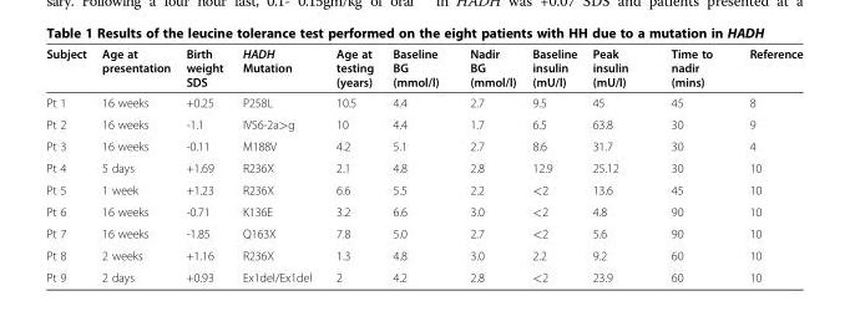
<table><thead><tr><td>Subject</td><td>Age at presentation</td><td>Birth weight SDS</td><td>HADH Mutation</td><td>Age at testing (years)</td><td>Baseline BG (mmol/l)</td><td>Nadir BG (mmol/l)</td><td>Baseline insulin (mU/l)</td><td>Peak insulin (mU/l)</td><td>Time to nadir (mins)</td><td>Reference</td></tr></thead><tbody><tr><td>Pt 1</td><td>16 weeks</td><td>+0.25</td><td>P258L</td><td>10.5</td><td>4.4</td><td>2.7</td><td>9.5</td><td>45</td><td>45</td><td>8</td></tr><tr><td>Pt 2</td><td>16 weeks</td><td>-1.1</td><td>IVS6-2a&gt;g</td><td>10</td><td>4.4</td><td>1.7</td><td>6.5</td><td>63.8</td><td>30</td><td>9</td></tr><tr><td>Pt 3</td><td>16 weeks</td><td>-0.11</td><td>M188V</td><td>4.2</td><td>5.1</td><td>2.7</td><td>8.6</td><td>31.7</td><td>30</td><td>4</td></tr><tr><td>Pt 4</td><td>5 days</td><td>+1.69</td><td>R236X</td><td>2.1</td><td>4.8</td><td>2.8</td><td>12.9</td><td>25.12</td><td>30</td><td>10</td></tr><tr><td>Pt 5</td><td>1 week</td><td>+1.23</td><td>R236X</td><td>6.6</td><td>5.5</td><td>2.2</td><td>&lt;2</td><td>13.6</td><td>45</td><td>10</td></tr><tr><td>Pt 6</td><td>16 weeks</td><td>-0.71</td><td>K136E</td><td>3.2</td><td>6.6</td><td>3.0</td><td>&lt;2</td><td>4.8</td><td>90</td><td>10</td></tr><tr><td>Pt 7</td><td>16 weeks</td><td>-1.85</td><td>Q163X</td><td>7.8</td><td>5.0</td><td>2.7</td><td>&lt;2</td><td>5.6</td><td>90</td><td>10</td></tr><tr><td>Pt 8</td><td>2 weeks</td><td>+1.16</td><td>R236X</td><td>1.3</td><td>4.8</td><td>3.0</td><td>2.2</td><td>9.2</td><td>60</td><td>10</td></tr><tr><td>Pt 9</td><td>2 days</td><td>+0.93</td><td>Ex1del/Ex1del</td><td>2</td><td>4.2</td><td>2.8</td><td>&lt;2</td><td>23.9</td><td>60</td><td>10</td></tr></tbody></table>